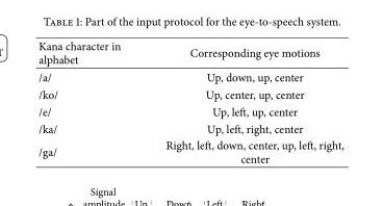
<table><thead><tr><td>Kana character in alphabet</td><td>Corresponding eye motions</td></tr></thead><tbody><tr><td>/a/</td><td>Up, down, up, center</td></tr><tr><td>/ko/</td><td>Up, center, up, center</td></tr><tr><td>/e/</td><td>Up, left, up, center</td></tr><tr><td>/ka/</td><td>Up, left, right, center</td></tr><tr><td>/ga/</td><td>Right, left, down, center, up, left, right, center</td></tr></tbody></table>